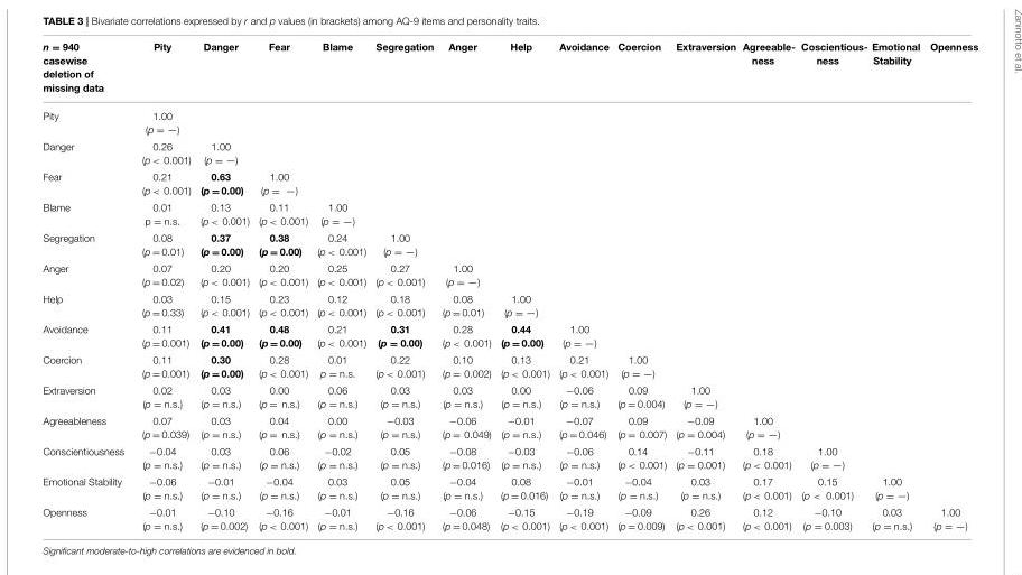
<table><thead><tr><td>n = 940 casewise deletion of missing data</td><td>Pity</td><td>Danger</td><td>Fear</td><td>Blame</td><td>Segregation</td><td>Anger</td><td>Help</td><td>Avoidance</td><td>Coercion</td><td>Extraversion</td><td>Agreeable- ness</td><td>Coscientious- ness</td><td>Emotional Stability</td><td>Openness</td></tr></thead><tbody><tr><td>Pity</td><td>1.00 (p = —)</td><td></td><td></td><td></td><td></td><td></td><td></td><td></td><td></td><td></td><td></td><td></td><td></td><td></td></tr><tr><td>Danger</td><td>0.26 (p &lt; 0.001)</td><td>1.00 (p = —)</td><td></td><td></td><td></td><td></td><td></td><td></td><td></td><td></td><td></td><td></td><td></td><td></td></tr><tr><td>Fear</td><td>0.21 (p &lt; 0.001)</td><td>0.63 (p = 0.00)</td><td>1.00 (p = —)</td><td></td><td></td><td></td><td></td><td></td><td></td><td></td><td></td><td></td><td></td><td></td></tr><tr><td>Blame</td><td>0.01 p = n.s.</td><td>0.13 (p &lt; 0.001)</td><td>0.11 (p &lt; 0.001)</td><td>1.00 (p = —)</td><td></td><td></td><td></td><td></td><td></td><td></td><td></td><td></td><td></td><td></td></tr><tr><td>Segregation</td><td>0.08 (p = 0.01)</td><td>0.37 (p = 0.00)</td><td>0.38 (p = 0.00)</td><td>0.24 (p &lt; 0.001)</td><td>1.00 (p = —)</td><td></td><td></td><td></td><td></td><td></td><td></td><td></td><td></td><td></td></tr><tr><td>Anger</td><td>0.07 (p = 0.02)</td><td>0.20 (p &lt; 0.001)</td><td>0.20 (p &lt; 0.001)</td><td>0.25 (p &lt; 0.001)</td><td>0.27 (p &lt; 0.001)</td><td>1.00 (p = —)</td><td></td><td></td><td></td><td></td><td></td><td></td><td></td><td></td></tr><tr><td>Help</td><td>0.03 (p = 0.33)</td><td>0.15 (p &lt; 0.001)</td><td>0.23 (p &lt; 0.001)</td><td>0.12 (p &lt; 0.001)</td><td>0.18 (p &lt; 0.001)</td><td>0.08 (p = 0.01)</td><td>1.00 (p = —)</td><td></td><td></td><td></td><td></td><td></td><td></td><td></td></tr><tr><td>Avoidance</td><td>0.11 (p = 0.001)</td><td>0.41 (p = 0.00)</td><td>0.48 (p = 0.00)</td><td>0.21 (p &lt; 0.001)</td><td>0.31 (p = 0.00)</td><td>0.28 (p &lt; 0.001)</td><td>0.44 (p = 0.00)</td><td>1.00 (p = —)</td><td></td><td></td><td></td><td></td><td></td><td></td></tr><tr><td>Coercion</td><td>0.11 (p = 0.001)</td><td>0.30 (p = 0.00)</td><td>0.28 (p &lt; 0.001)</td><td>0.01 p = n.s.</td><td>0.22 (p &lt; 0.001)</td><td>0.10 (p = 0.002)</td><td>0.13 (p &lt; 0.001)</td><td>0.21 (p &lt; 0.001)</td><td>1.00 (p = —)</td><td></td><td></td><td></td><td></td><td></td></tr><tr><td>Extraversion</td><td>0.02 (p = n.s.)</td><td>0.03 (p = n.s.)</td><td>0.00 (p = n.s.)</td><td>0.06 (p = n.s.)</td><td>0.03 (p = n.s.)</td><td>0.03 (p = n.s.)</td><td>0.00 (p = n.s.)</td><td>−0.06 (p = n.s.)</td><td>0.09 (p = 0.004)</td><td>1.00 (p = —)</td><td></td><td></td><td></td><td></td></tr><tr><td>Agreeableness</td><td>0.07 (p = 0.039)</td><td>0.03 (p = n.s.)</td><td>0.04 (p = n.s.)</td><td>0.00 (p = n.s.)</td><td>−0.03 (p = n.s.)</td><td>−0.06 (p = 0.049)</td><td>−0.01 (p = n.s.)</td><td>−0.07 (p = 0.046)</td><td>0.09 (p = 0.007)</td><td>−0.09 (p = 0.004)</td><td>1.00 (p = —)</td><td></td><td></td><td></td></tr><tr><td>Conscientiousness</td><td>−0.04 (p = n.s.)</td><td>0.03 (p = n.s.)</td><td>0.06 (p = n.s.)</td><td>−0.02 (p = n.s.)</td><td>0.05 (p = n.s.)</td><td>−0.08 (p = 0.016)</td><td>−0.03 (p = n.s.)</td><td>−0.06 (p = n.s.)</td><td>0.14 (p &lt; 0.001)</td><td>−0.11 (p = 0.001)</td><td>0.18 (p &lt; 0.001)</td><td>1.00 (p = —)</td><td></td><td></td></tr><tr><td>Emotional Stability</td><td>−0.06 (p = n.s.)</td><td>−0.01 (p = n.s.)</td><td>−0.04 (p = n.s.)</td><td>0.03 (p = n.s.)</td><td>0.05 (p = n.s.)</td><td>−0.04 (p = n.s.)</td><td>0.08 (p = 0.016)</td><td>−0.01 (p = n.s.)</td><td>−0.04 (p = n.s.)</td><td>0.03 (p = n.s.)</td><td>0.17 (p &lt; 0.001)</td><td>0.15 (p &lt; 0.001)</td><td>1.00 (p = —)</td><td></td></tr><tr><td>Openness</td><td>−0.01 (p = n.s.)</td><td>−0.10 (p = 0.002)</td><td>−0.16 (p &lt; 0.001)</td><td>−0.01 (p = n.s.)</td><td>−0.16 (p &lt; 0.001)</td><td>−0.06 (p = 0.048)</td><td>−0.15 (p &lt; 0.001)</td><td>−0.19 (p &lt; 0.001)</td><td>−0.09 (p = 0.009)</td><td>0.26 (p &lt; 0.001)</td><td>0.12 (p &lt; 0.001)</td><td>−0.10 (p = 0.003)</td><td>0.03 (p = n.s.)</td><td>1.00 (p = —)</td></tr></tbody></table>